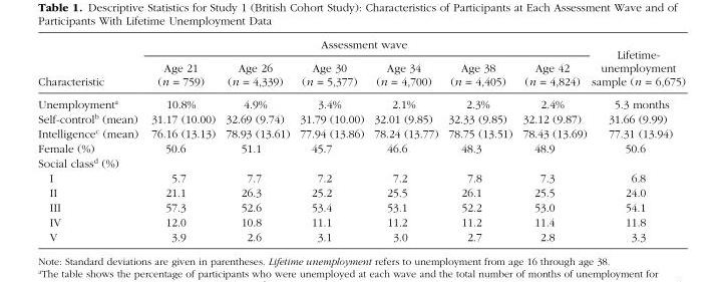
<table><thead><tr><td rowspan="2">Characteristic</td><td colspan="6">Assessment wave</td><td rowspan="2">Lifetime- unemployment sample (n = 6,675)</td></tr><tr><td>Age 21 (n = 759)</td><td>Age 26 (n = 4,339)</td><td>Age 30 (n = 5,377)</td><td>Age 34 (n = 4,700)</td><td>Age 38 (n = 4,405)</td><td>Age 42 (n = 4,824)</td></tr></thead><tbody><tr><td>Unemployment<sup>a</sup></td><td>10.8%</td><td>4.9%</td><td>3.4%</td><td>2.1%</td><td>2.3%</td><td>2.4%</td><td>5.3 months</td></tr><tr><td>Self-control<sup>b</sup> (mean)</td><td>31.17 (10.00)</td><td>32.69 (9.74)</td><td>31.79 (10.00)</td><td>32.01 (9.85)</td><td>32.33 (9.85)</td><td>32.12 (9.87)</td><td>31.66 (9.99)</td></tr><tr><td>Intelligence<sup>c</sup> (mean)</td><td>76.16 (13.13)</td><td>78.93 (13.61)</td><td>77.94 (13.86)</td><td>78.24 (13.77)</td><td>78.75 (13.51)</td><td>78.43 (13.69)</td><td>77.31 (13.94)</td></tr><tr><td>Female (%)</td><td>50.6</td><td>51.1</td><td>45.7</td><td>46.6</td><td>48.3</td><td>48.9</td><td>50.6</td></tr><tr><td colspan="8">Social class<sup>d</sup> (%)</td></tr><tr><td>I</td><td>5.7</td><td>7.7</td><td>7.2</td><td>7.2</td><td>7.8</td><td>7.3</td><td>6.8</td></tr><tr><td>II</td><td>21.1</td><td>26.3</td><td>25.2</td><td>25.5</td><td>26.1</td><td>25.5</td><td>24.0</td></tr><tr><td>III</td><td>57.3</td><td>52.6</td><td>53.4</td><td>53.1</td><td>52.2</td><td>53.0</td><td>54.1</td></tr><tr><td>IV</td><td>12.0</td><td>10.8</td><td>11.1</td><td>11.2</td><td>11.2</td><td>11.4</td><td>11.8</td></tr><tr><td>V</td><td>3.9</td><td>2.6</td><td>3.1</td><td>3.0</td><td>2.7</td><td>2.8</td><td>3.3</td></tr></tbody></table>